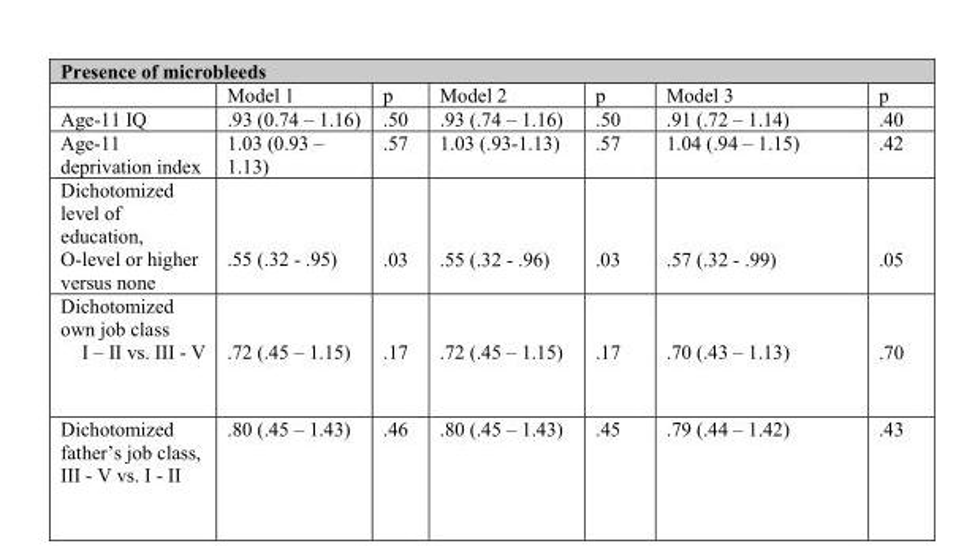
<table><thead><tr><td colspan="7">Presence of microbleeds</td></tr><tr><td></td><td>Model 1</td><td>p</td><td>Model 2</td><td>p</td><td>Model 3</td><td>p</td></tr></thead><tbody><tr><td>Age-11 IQ</td><td>.93 (0.74 – 1.16)</td><td>.50</td><td>.93 (.74 – 1.16)</td><td>.50</td><td>.91 (.72 – 1.14)</td><td>.40</td></tr><tr><td>Age-11 deprivation index</td><td>1.03 (0.93 – 1.13)</td><td>.57</td><td>1.03 (.93-1.13)</td><td>.57</td><td>1.04 (.94 – 1.15)</td><td>.42</td></tr><tr><td>Dichotomized level of education, O-level or higher versus none</td><td>.55 (.32 - .95)</td><td>.03</td><td>.55 (.32 - .96)</td><td>.03</td><td>.57 (.32 - .99)</td><td>.05</td></tr><tr><td>Dichotomized own job class I – II vs. III - V</td><td>.72 (.45 – 1.15)</td><td>.17</td><td>.72 (.45 – 1.15)</td><td>.17</td><td>.70 (.43 – 1.13)</td><td>.70</td></tr><tr><td>Dichotomized father’s job class, III - V vs. I - II</td><td>.80 (.45 – 1.43)</td><td>.46</td><td>.80 (.45 – 1.43)</td><td>.45</td><td>.79 (.44 – 1.42)</td><td>.43</td></tr></tbody></table>